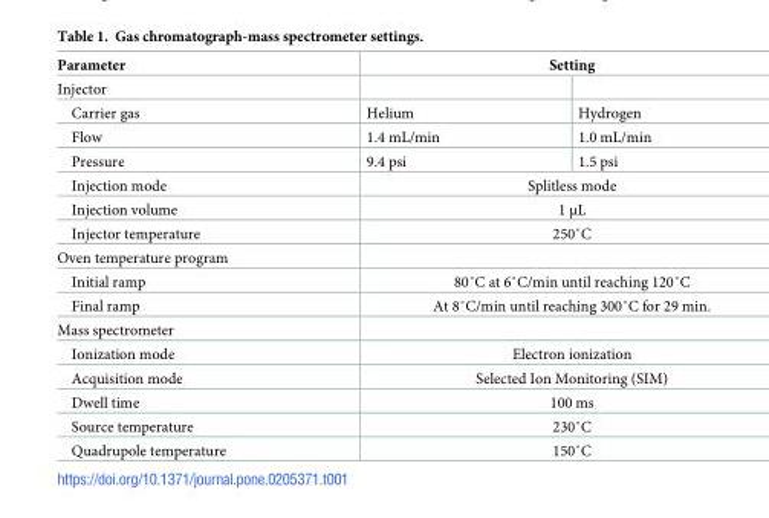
<table><thead><tr><td rowspan="2">Parameter Injector</td><td colspan="2">Setting</td></tr><tr><td></td><td></td></tr></thead><tbody><tr><td>Carrier gas</td><td>Helium</td><td>Hydrogen</td></tr><tr><td>Flow</td><td>1.4 mL/min</td><td>1.0 mL/min</td></tr><tr><td>Pressure</td><td>9.4 psi</td><td>1.5 psi</td></tr><tr><td>Injection mode</td><td colspan="2">Splitless mode</td></tr><tr><td>Injection volume</td><td colspan="2">1 μL</td></tr><tr><td>Injector temperature</td><td colspan="2">250˚C</td></tr><tr><td colspan="3">Oven temperature program</td></tr><tr><td>Initial ramp</td><td colspan="2">80˚C at 6˚C/min until reaching 120˚C</td></tr><tr><td>Final ramp</td><td colspan="2">At 8˚C/min until reaching 300˚C for 29 min.</td></tr><tr><td colspan="3">Mass spectrometer</td></tr><tr><td>Ionization mode</td><td colspan="2">Electron ionization</td></tr><tr><td>Acquisition mode</td><td colspan="2">Selected Ion Monitoring (SIM)</td></tr><tr><td>Dwell time</td><td colspan="2">100 ms</td></tr><tr><td>Source temperature</td><td colspan="2">230˚C</td></tr><tr><td>Quadrupole temperature</td><td colspan="2">150˚C</td></tr></tbody></table>